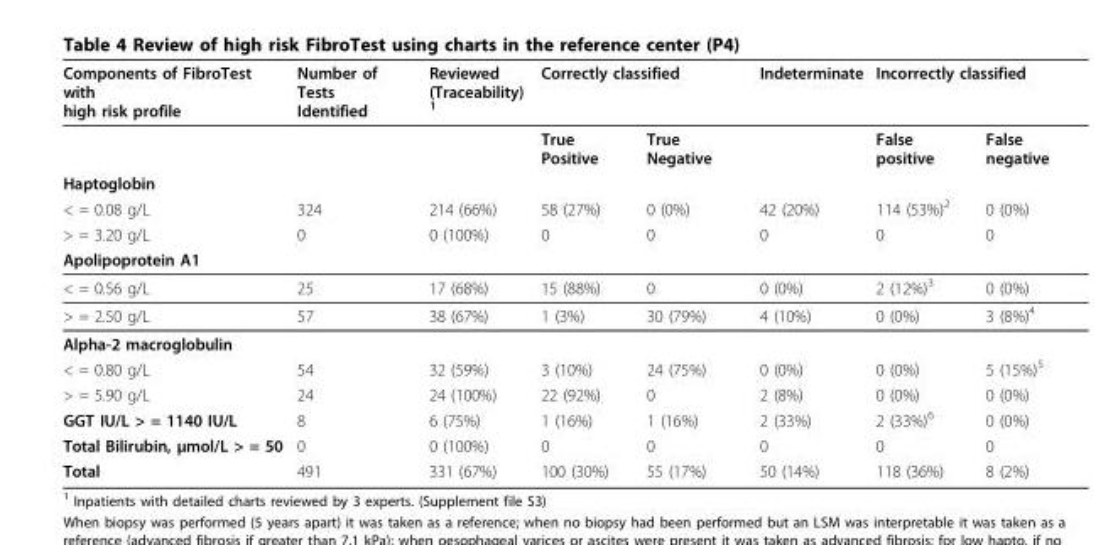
<table><thead><tr><td rowspan="2">Components of FibroTest with high risk profile</td><td rowspan="2">Number of Tests Identified</td><td rowspan="2">Reviewed (Traceability) <sup>1</sup></td><td colspan="2">Correctly classified</td><td rowspan="2">Indeterminate</td><td colspan="2">Incorrectly classified</td></tr><tr><td>True Positive</td><td>True Negative</td><td>False positive</td><td>False negative</td></tr></thead><tbody><tr><td colspan="8">Haptoglobin</td></tr><tr><td>&lt; = 0.08 g/L</td><td>324</td><td>214 (66%)</td><td>58 (27%)</td><td>0 (0%)</td><td>42 (20%)</td><td>114 (53%)<sup>2</sup></td><td>0 (0%)</td></tr><tr><td>&gt; = 3.20 g/L</td><td>0</td><td>0 (100%)</td><td>0</td><td>0</td><td>0</td><td>0</td><td>0</td></tr><tr><td colspan="8">Apolipoprotein A1</td></tr><tr><td>&lt; = 0.56 g/L</td><td>25</td><td>17 (68%)</td><td>15 (88%)</td><td>0</td><td>0 (0%)</td><td>2 (12%)<sup>3</sup></td><td>0 (0%)</td></tr><tr><td>&gt; = 2.50 g/L</td><td>57</td><td>38 (67%)</td><td>1 (3%)</td><td>30 (79%)</td><td>4 (10%)</td><td>0 (0%)</td><td>3 (8%)<sup>4</sup></td></tr><tr><td colspan="8">Alpha-2 macroglobulin</td></tr><tr><td>&lt; = 0.80 g/L</td><td>54</td><td>32 (59%)</td><td>3 (10%)</td><td>24 (75%)</td><td>0 (0%)</td><td>0 (0%)</td><td>5 (15%)<sup>5</sup></td></tr><tr><td>&gt; = 5.90 g/L</td><td>24</td><td>24 (100%)</td><td>22 (92%)</td><td>0</td><td>2 (8%)</td><td>0 (0%)</td><td>0 (0%)</td></tr><tr><td>GGT IU/L &gt; = 1140 IU/L</td><td>8</td><td>6 (75%)</td><td>1 (16%)</td><td>1 (16%)</td><td>2 (33%)</td><td>2 (33%)<sup>6</sup></td><td>0 (0%)</td></tr><tr><td>Total Bilirubin, μmol/L &gt; = 50</td><td>0</td><td>0 (100%)</td><td>0</td><td>0</td><td>0</td><td>0</td><td>0</td></tr><tr><td>Total</td><td>491</td><td>331 (67%)</td><td>100 (30%)</td><td>55 (17%)</td><td>50 (14%)</td><td>118 (36%)</td><td>8 (2%)</td></tr></tbody></table>